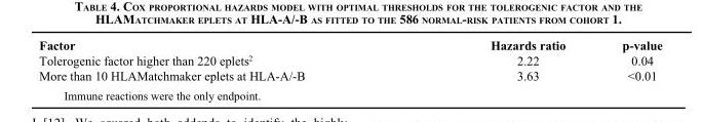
<table><thead><tr><td>Factor</td><td>Hazards ratio</td><td>p-value</td></tr></thead><tbody><tr><td>Tolerogenic factor higher than 220 eplets <sup>2</sup></td><td>2.22</td><td>0.04</td></tr><tr><td>More than 10 HLAMatchmaker eplets at HLA-A/-B</td><td>3.63</td><td>&lt;0.01</td></tr></tbody></table>